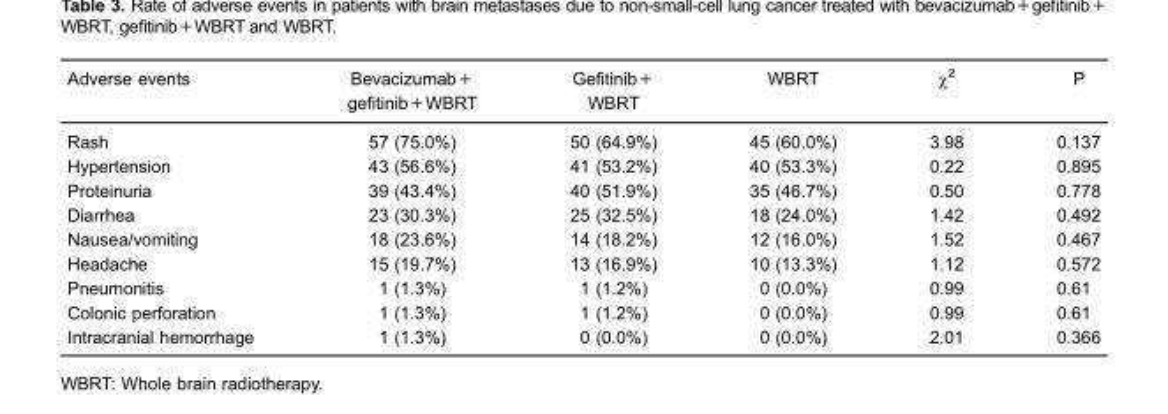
<table><thead><tr><td>Adverse events</td><td>Bevacizumab+ gefitinib+WBRT</td><td>Gefitinib+ WBRT</td><td>WBRT</td><td>χ<sup>2</sup></td><td>P</td></tr></thead><tbody><tr><td>Rash</td><td>57 (75.0%)</td><td>50 (64.9%)</td><td>45 (60.0%)</td><td>3.98</td><td>0.137</td></tr><tr><td>Hypertension</td><td>43 (56.6%)</td><td>41 (53.2%)</td><td>40 (53.3%)</td><td>0.22</td><td>0.895</td></tr><tr><td>Proteinuria</td><td>39 (43.4%)</td><td>40 (51.9%)</td><td>35 (46.7%)</td><td>0.50</td><td>0.778</td></tr><tr><td>Diarrhea</td><td>23 (30.3%)</td><td>25 (32.5%)</td><td>18 (24.0%)</td><td>1.42</td><td>0.492</td></tr><tr><td>Nausea/vomiting</td><td>18 (23.6%)</td><td>14 (18.2%)</td><td>12 (16.0%)</td><td>1.52</td><td>0.467</td></tr><tr><td>Headache</td><td>15 (19.7%)</td><td>13 (16.9%)</td><td>10 (13.3%)</td><td>1.12</td><td>0.572</td></tr><tr><td>Pneumonitis</td><td>1 (1.3%)</td><td>1 (1.2%)</td><td>0 (0.0%)</td><td>0.99</td><td>0.61</td></tr><tr><td>Colonic perforation</td><td>1 (1.3%)</td><td>1 (1.2%)</td><td>0 (0.0%)</td><td>0.99</td><td>0.61</td></tr><tr><td>Intracranial hemorrhage</td><td>1 (1.3%)</td><td>0 (0.0%)</td><td>0 (0.0%)</td><td>2.01</td><td>0.366</td></tr></tbody></table>